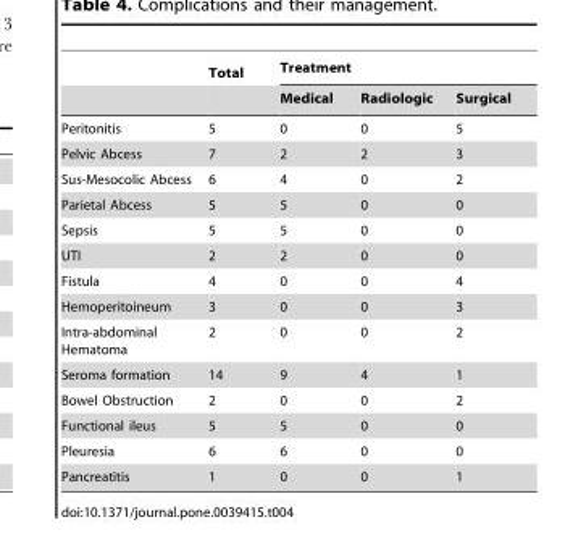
<table><thead><tr><td rowspan="2"></td><td rowspan="2">Total</td><td colspan="3">Treatment</td></tr><tr><td>Medical</td><td>Radiologic</td><td>Surgical</td></tr></thead><tbody><tr><td>Peritonitis</td><td>5</td><td>0</td><td>0</td><td>5</td></tr><tr><td>Pelvic Abcess</td><td>7</td><td>2</td><td>2</td><td>3</td></tr><tr><td>Sus-Mesocolic Abcess</td><td>6</td><td>4</td><td>0</td><td>2</td></tr><tr><td>Parietal Abcess</td><td>5</td><td>5</td><td>0</td><td>0</td></tr><tr><td>Sepsis</td><td>5</td><td>5</td><td>0</td><td>0</td></tr><tr><td>UTI</td><td>2</td><td>2</td><td>0</td><td>0</td></tr><tr><td>Fistula</td><td>4</td><td>0</td><td>0</td><td>4</td></tr><tr><td>Hemoperitoineum</td><td>3</td><td>0</td><td>0</td><td>3</td></tr><tr><td>Intra-abdominal Hematoma</td><td>2</td><td>0</td><td>0</td><td>2</td></tr><tr><td>Seroma formation</td><td>14</td><td>9</td><td>4</td><td>1</td></tr><tr><td>Bowel Obstruction</td><td>2</td><td>0</td><td>0</td><td>2</td></tr><tr><td>Functional ileus</td><td>5</td><td>5</td><td>0</td><td>0</td></tr><tr><td>Pleuresia</td><td>6</td><td>6</td><td>0</td><td>0</td></tr><tr><td>Pancreatitis</td><td>1</td><td>0</td><td>0</td><td>1</td></tr></tbody></table>